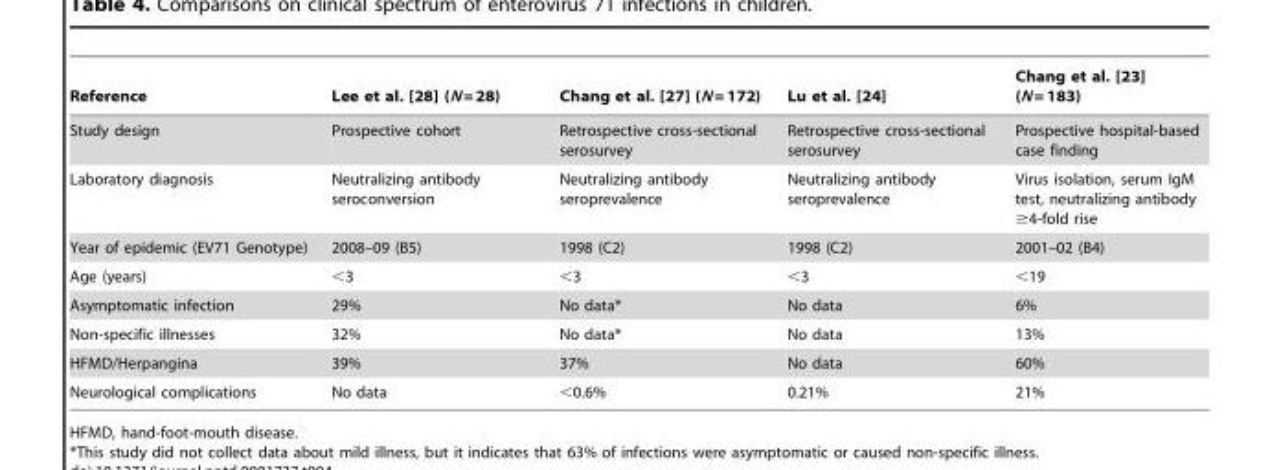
<table><thead><tr><td>Reference</td><td>Lee et al. [28] (N = 28)</td><td>Chang et al. [27] (N = 172)</td><td>Lu et al. [24]</td><td>Chang et al. [23] (N = 183)</td></tr></thead><tbody><tr><td>Study design</td><td>Prospective cohort</td><td>Retrospective cross-sectional serosurvey</td><td>Retrospective cross-sectional serosurvey</td><td>Prospective hospital-based case finding</td></tr><tr><td>Laboratory diagnosis</td><td>Neutralizing antibody seroconversion</td><td>Neutralizing antibody seroprevalence</td><td>Neutralizing antibody seroprevalence</td><td>Virus isolation, serum IgM test, neutralizing antibody ≥4-fold rise</td></tr><tr><td>Year of epidemic (EV71 Genotype)</td><td>2008–09 (B5)</td><td>1998 (C2)</td><td>1998 (C2)</td><td>2001–02 (B4)</td></tr><tr><td>Age (years)</td><td>&lt;3</td><td>&lt;3</td><td>&lt;3</td><td>&lt;19</td></tr><tr><td>Asymptomatic infection</td><td>29%</td><td>No data*</td><td>No data</td><td>6%</td></tr><tr><td>Non-specific illnesses</td><td>32%</td><td>No data*</td><td>No data</td><td>13%</td></tr><tr><td>HFMD/Herpangina</td><td>39%</td><td>37%</td><td>No data</td><td>60%</td></tr><tr><td>Neurological complications</td><td>No data</td><td>&lt;0.6%</td><td>0.21%</td><td>21%</td></tr></tbody></table>